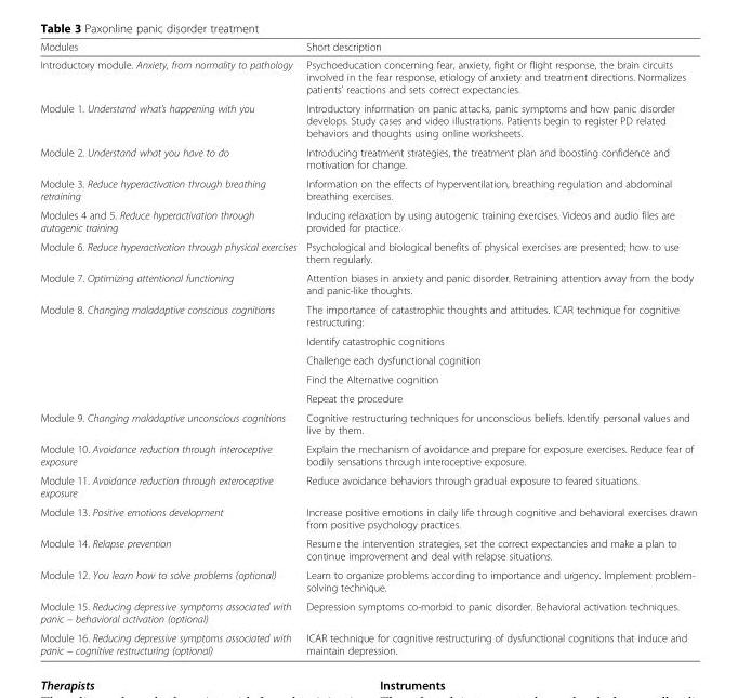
<table><thead><tr><td>Modules</td><td>Short description</td></tr></thead><tbody><tr><td>Introductory module. Anxiety, from normality to pathology</td><td>Psychoeducation concerning fear, anxiety, fight or flight response, the brain circuits involved in the fear response, etiology of anxiety and treatment directions. Normalizes patients’ reactions and sets correct expectancies.</td></tr><tr><td>Module 1. Understand what’s happening with you</td><td>Introductory information on panic attacks, panic symptoms and how panic disorder develops. Study cases and video illustrations. Patients begin to register PD related behaviors and thoughts using online worksheets.</td></tr><tr><td>Module 2. Understand what you have to do</td><td>Introducing treatment strategies, the treatment plan and boosting confidence and motivation for change.</td></tr><tr><td>Module 3. Reduce hyperactivation through breathing retraining</td><td>Information on the effects of hyperventilation, breathing regulation and abdominal breathing exercises.</td></tr><tr><td>Modules 4 and 5. Reduce hyperactivation through autogenic training</td><td>Inducing relaxation by using autogenic training exercises. Videos and audio files are provided for practice.</td></tr><tr><td>Module 6. Reduce hyperactivation through physical exercises</td><td>Psychological and biological benefits of physical exercises are presented; how to use them regularly.</td></tr><tr><td>Module 7. Optimizing attentional functioning</td><td>Attention biases in anxiety and panic disorder. Retraining attention away from the body and panic-like thoughts.</td></tr><tr><td rowspan="5">Module 8. Changing maladaptive conscious cognitions</td><td>The importance of catastrophic thoughts and attitudes. ICAR technique for cognitive restructuring:</td></tr><tr><td>Identify catastrophic cognitions</td></tr><tr><td>Challenge each dysfunctional cognition</td></tr><tr><td>Find the Alternative cognition</td></tr><tr><td>Repeat the procedure</td></tr><tr><td>Module 9. Changing maladaptive unconscious cognitions</td><td>Cognitive restructuring techniques for unconscious beliefs. Identify personal values and live by them.</td></tr><tr><td>Module 10. Avoidance reduction through interoceptive exposure</td><td>Explain the mechanism of avoidance and prepare for exposure exercises. Reduce fear of bodily sensations through interoceptive exposure.</td></tr><tr><td>Module 11. Avoidance reduction through exteroceptive exposure</td><td>Reduce avoidance behaviors through gradual exposure to feared situations.</td></tr><tr><td>Module 13. Positive emotions development</td><td>Increase positive emotions in daily life through cognitive and behavioral exercises drawn from positive psychology practices.</td></tr><tr><td>Module 14. Relapse prevention</td><td>Resume the intervention strategies, set the correct expectancies and make a plan to continue improvement and deal with relapse situations.</td></tr><tr><td>Module 12. You learn how to solve problems (optional)</td><td>Learn to organize problems according to importance and urgency. Implement problem- solving technique.</td></tr><tr><td>Module 15. Reducing depressive symptoms associated with panic – behavioral activation (optional)</td><td>Depression symptoms co-morbid to panic disorder. Behavioral activation techniques.</td></tr><tr><td>Module 16. Reducing depressive symptoms associated with panic – cognitive restructuring (optional)</td><td>ICAR technique for cognitive restructuring of dysfunctional cognitions that induce and maintain depression.</td></tr></tbody></table>